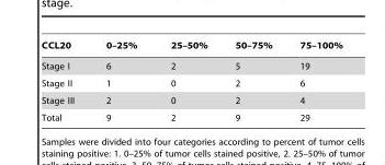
<table><thead><tr><td>CCL20</td><td>0–25%</td><td>25–50%</td><td>50–75%</td><td>75–100%</td></tr></thead><tbody><tr><td>Stage I</td><td>6</td><td>2</td><td>5</td><td>19</td></tr><tr><td>Stage II</td><td>1</td><td>0</td><td>2</td><td>6</td></tr><tr><td>Stage III</td><td>2</td><td>0</td><td>2</td><td>4</td></tr><tr><td>Total</td><td>9</td><td>2</td><td>9</td><td>29</td></tr></tbody></table>